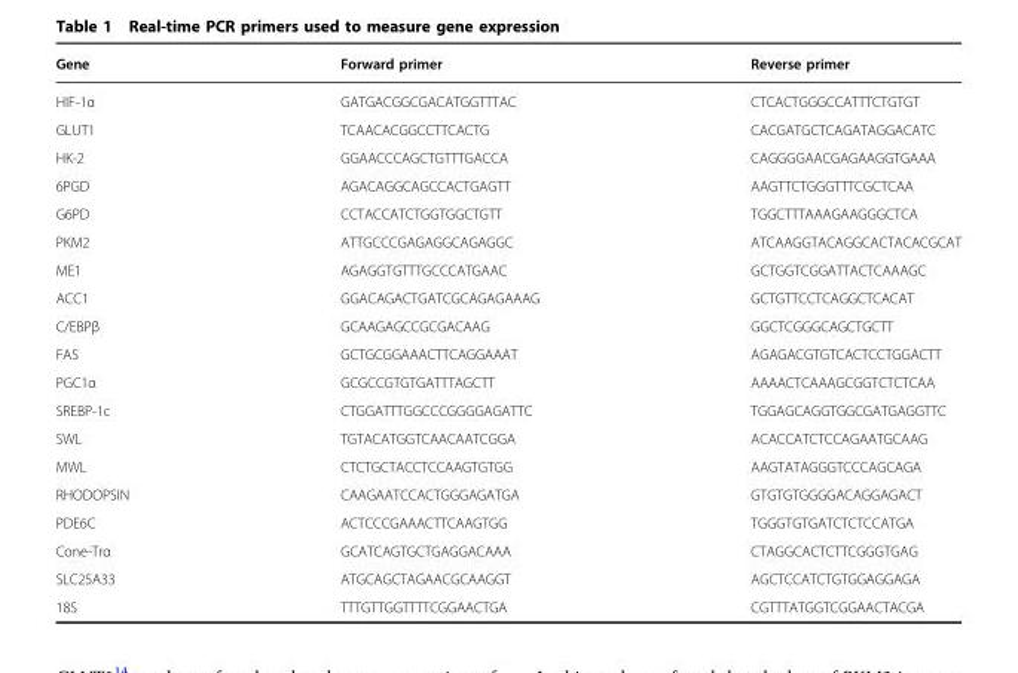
<table><thead><tr><td>Gene</td><td>Forward primer</td><td>Reverse primer</td></tr></thead><tbody><tr><td>HIF-1α</td><td>GATGACGGCGACATGGTTTAC</td><td>CTCACTGGGCCATTTCTGTGT</td></tr><tr><td>GLUT1</td><td>TCAACACGGCCTTCACTG</td><td>CACGATGCTCAGATAGGACATC</td></tr><tr><td>HK-2</td><td>GGAACCCAGCTGTTTGACCA</td><td>CAGGGGAACGAGAAGGTGAAA</td></tr><tr><td>6PGD</td><td>AGACAGGCAGCCACTGAGTT</td><td>AAGTTCTGGGTTTCGCTCAA</td></tr><tr><td>G6PD</td><td>CCTACCATCTGGTGGCTGTT</td><td>TGGCTTTAAAGAAGGGCTCA</td></tr><tr><td>PKM2</td><td>ATTGCCCGAGAGGCAGAGGC</td><td>ATCAAGGTACAGGCACTACACGCAT</td></tr><tr><td>ME1</td><td>AGAGGTGTTTGCCCATGAAC</td><td>GCTGGTCGGATTACTCAAAGC</td></tr><tr><td>ACC1</td><td>GGACAGACTGATCGCAGAGAAAG</td><td>GCTGTTCCTCAGGCTCACAT</td></tr><tr><td>C/EBPβ</td><td>GCAAGAGCCGCGACAAG</td><td>GGCTCGGGCAGCTGCTT</td></tr><tr><td>FAS</td><td>GCTGCGGAAACTTCAGGAAAT</td><td>AGAGACGTGTCACTCCTGGACTT</td></tr><tr><td>PGC1α</td><td>GCGCCGTGTGATTTAGCTT</td><td>AAAACTCAAAGCGGTCTCTCAA</td></tr><tr><td>SREBP-1c</td><td>CTGGATTTGGCCCGGGGAGATTC</td><td>TGGAGCAGGTGGCGATGAGGTTC</td></tr><tr><td>SWL</td><td>TGTACATGGTCAACAATCGGA</td><td>ACACCATCTCCAGAATGCAAG</td></tr><tr><td>MWL</td><td>CTCTGCTACCTCCAAGTGTGG</td><td>AAGTATAGGGTCCCAGCAGA</td></tr><tr><td>RHODOPSIN</td><td>CAAGAATCCACTGGGAGATGA</td><td>GTGTGTGGGGACAGGAGACT</td></tr><tr><td>PDE6C</td><td>ACTCCCGAAACTTCAAGTGG</td><td>TGGGTGTGATCTCTCCATGA</td></tr><tr><td>Cone-Trα</td><td>GCATCAGTGCTGAGGACAAA</td><td>CTAGGCACTCTTCGGGTGAG</td></tr><tr><td>SLC25A33</td><td>ATGCAGCTAGAACGCAAGGT</td><td>AGCTCCATCTGTGGAGGAGA</td></tr><tr><td>18S</td><td>TTTGTTGGTTTTCGGAACTGA</td><td>CGTTTATGGTCGGAACTACGA</td></tr></tbody></table>